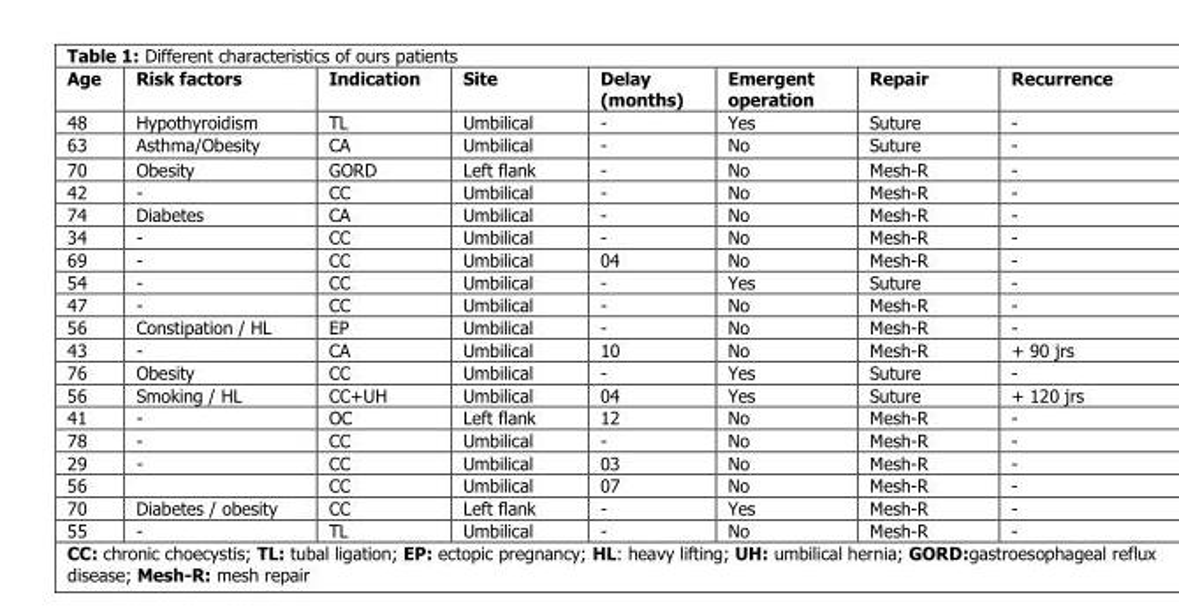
<table><thead><tr><td>Age</td><td>Risk factors</td><td>Indication</td><td>Site</td><td>Delay (months)</td><td>Emergent operation</td><td>Repair</td><td>Recurrence</td></tr></thead><tbody><tr><td>48</td><td>Hypothyroidism</td><td>TL</td><td>Umbilical</td><td>-</td><td>Yes</td><td>Suture</td><td>-</td></tr><tr><td>63</td><td>Asthma/Obesity</td><td>CA</td><td>Umbilical</td><td>-</td><td>No</td><td>Suture</td><td>-</td></tr><tr><td>70</td><td>Obesity</td><td>GORD</td><td>Left flank</td><td>-</td><td>No</td><td>Mesh-R</td><td>-</td></tr><tr><td>42</td><td>-</td><td>CC</td><td>Umbilical</td><td>-</td><td>No</td><td>Mesh-R</td><td>-</td></tr><tr><td>74</td><td>Diabetes</td><td>CA</td><td>Umbilical</td><td>-</td><td>No</td><td>Mesh-R</td><td>-</td></tr><tr><td>34</td><td>-</td><td>CC</td><td>Umbilical</td><td>-</td><td>No</td><td>Mesh-R</td><td>-</td></tr><tr><td>69</td><td>-</td><td>CC</td><td>Umbilical</td><td>04</td><td>No</td><td>Mesh-R</td><td>-</td></tr><tr><td>54</td><td>-</td><td>CC</td><td>Umbilical</td><td>-</td><td>Yes</td><td>Suture</td><td>-</td></tr><tr><td>47</td><td>-</td><td>CC</td><td>Umbilical</td><td>-</td><td>No</td><td>Mesh-R</td><td>-</td></tr><tr><td>56</td><td>Constipation / HL</td><td>EP</td><td>Umbilical</td><td>-</td><td>No</td><td>Mesh-R</td><td>-</td></tr><tr><td>43</td><td>-</td><td>CA</td><td>Umbilical</td><td>10</td><td>No</td><td>Mesh-R</td><td>+ 90 jrs</td></tr><tr><td>76</td><td>Obesity</td><td>CC</td><td>Umbilical</td><td>-</td><td>Yes</td><td>Suture</td><td>-</td></tr><tr><td>56</td><td>Smoking / HL</td><td>CC+UH</td><td>Umbilical</td><td>04</td><td>Yes</td><td>Suture</td><td>+ 120 jrs</td></tr><tr><td>41</td><td>-</td><td>OC</td><td>Left flank</td><td>12</td><td>No</td><td>Mesh-R</td><td>-</td></tr><tr><td>78</td><td>-</td><td>CC</td><td>Umbilical</td><td>-</td><td>No</td><td>Mesh-R</td><td>-</td></tr><tr><td>29</td><td>-</td><td>CC</td><td>Umbilical</td><td>03</td><td>No</td><td>Mesh-R</td><td>-</td></tr><tr><td>56</td><td></td><td>CC</td><td>Umbilical</td><td>07</td><td>No</td><td>Mesh-R</td><td>-</td></tr><tr><td>70</td><td>Diabetes / obesity</td><td>CC</td><td>Left flank</td><td>-</td><td>Yes</td><td>Mesh-R</td><td>-</td></tr><tr><td>55</td><td>-</td><td>TL</td><td>Umbilical</td><td>-</td><td>No</td><td>Mesh-R</td><td>-</td></tr></tbody></table>